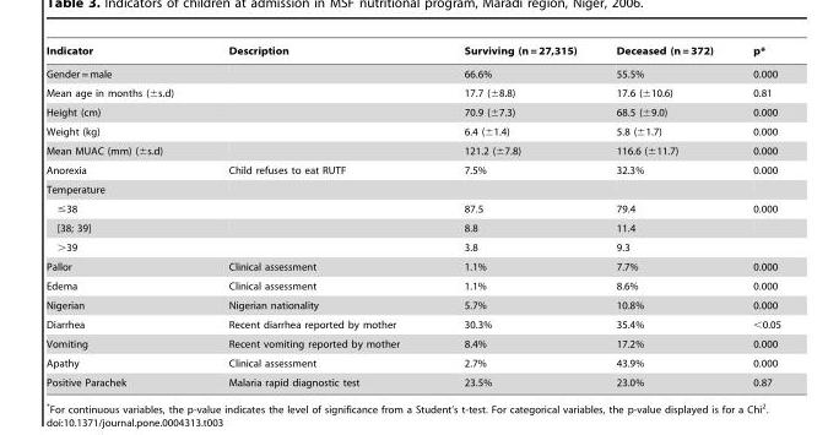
<table><thead><tr><td>Indicator</td><td>Description</td><td>Surviving (n = 27,315)</td><td>Deceased (n = 372)</td><td>p*</td></tr></thead><tbody><tr><td>Gender = male</td><td></td><td>66.6%</td><td>55.5%</td><td>0.000</td></tr><tr><td>Mean age in months (±s.d)</td><td></td><td>17.7 (±8.8)</td><td>17.6 (±10.6)</td><td>0.81</td></tr><tr><td>Height (cm)</td><td></td><td>70.9 (±7.3)</td><td>68.5 (±9.0)</td><td>0.000</td></tr><tr><td>Weight (kg)</td><td></td><td>6.4 (±1.4)</td><td>5.8 (±1.7)</td><td>0.000</td></tr><tr><td>Mean MUAC (mm) (±s.d)</td><td></td><td>121.2 (±7.8)</td><td>116.6 (±11.7)</td><td>0.000</td></tr><tr><td>Anorexia</td><td>Child refuses to eat RUTF</td><td>7.5%</td><td>32.3%</td><td>0.000</td></tr><tr><td colspan="5">Temperature</td></tr><tr><td>≤38</td><td></td><td>87.5</td><td>79.4</td><td>0.000</td></tr><tr><td>[38; 39]</td><td></td><td>8.8</td><td>11.4</td><td></td></tr><tr><td>&gt;39</td><td></td><td>3.8</td><td>9.3</td><td></td></tr><tr><td>Pallor</td><td>Clinical assessment</td><td>1.1%</td><td>7.7%</td><td>0.000</td></tr><tr><td>Edema</td><td>Clinical assessment</td><td>1.1%</td><td>8.6%</td><td>0.000</td></tr><tr><td>Nigerian</td><td>Nigerian nationality</td><td>5.7%</td><td>10.8%</td><td>0.000</td></tr><tr><td>Diarrhea</td><td>Recent diarrhea reported by mother</td><td>30.3%</td><td>35.4%</td><td>&lt;0.05</td></tr><tr><td>Vomiting</td><td>Recent vomiting reported by mother</td><td>8.4%</td><td>17.2%</td><td>0.000</td></tr><tr><td>Apathy</td><td>Clinical assessment</td><td>2.7%</td><td>43.9%</td><td>0.000</td></tr><tr><td>Positive Parachek</td><td>Malaria rapid diagnostic test</td><td>23.5%</td><td>23.0%</td><td>0.87</td></tr></tbody></table>